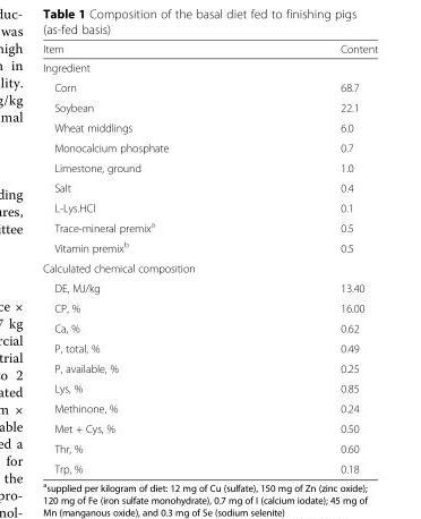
<table><thead><tr><td>Item</td><td>Content</td></tr></thead><tbody><tr><td colspan="2">Ingredient</td></tr><tr><td>Corn</td><td>68.7</td></tr><tr><td>Soybean</td><td>22.1</td></tr><tr><td>Wheat middlings</td><td>6.0</td></tr><tr><td>Monocalcium phosphate</td><td>0.7</td></tr><tr><td>Limestone, ground</td><td>1.0</td></tr><tr><td>Salt</td><td>0.4</td></tr><tr><td>L-Lys.HCl</td><td>0.1</td></tr><tr><td>Trace-mineral premix<sup>a</sup></td><td>0.5</td></tr><tr><td>Vitamin premix<sup>b</sup></td><td>0.5</td></tr><tr><td colspan="2">Calculated chemical composition</td></tr><tr><td>DE, MJ/kg</td><td>13.40</td></tr><tr><td>CP, %</td><td>16.00</td></tr><tr><td>Ca, %</td><td>0.62</td></tr><tr><td>P, total, %</td><td>0.49</td></tr><tr><td>P, available, %</td><td>0.25</td></tr><tr><td>Lys, %</td><td>0.85</td></tr><tr><td>Methinone, %</td><td>0.24</td></tr><tr><td>Met + Cys, %</td><td>0.50</td></tr><tr><td>Thr, %</td><td>0.60</td></tr><tr><td>Trp, %</td><td>0.18</td></tr></tbody></table>